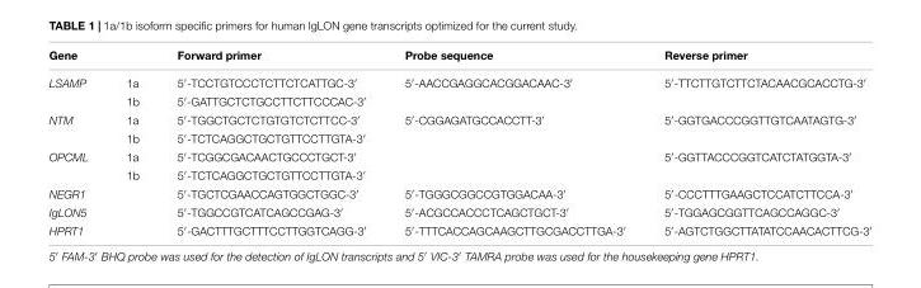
<table><thead><tr><td>Gene</td><td></td><td>Forward primer</td><td>Probe sequence</td><td>Reverse primer</td></tr></thead><tbody><tr><td rowspan="2">LSAMP</td><td>1a</td><td>5′-TCCTGTCCCTCTTCTCATTGC-3′</td><td>5′-AACCGAGGCACGGACAAC-3′</td><td>5′-TTCTTGTCTTCTACAACGCACCTG-3′</td></tr><tr><td>1b</td><td>5′-GATTGCTCTGCCTTCTTCCCAC-3′</td><td></td><td></td></tr><tr><td rowspan="2">NTM</td><td>1a</td><td>5′-TGGCTGCTCTGTGTCTCTTCC-3′</td><td>5′-CGGAGATGCCACCTT-3′</td><td>5′-GGTGACCCGGTTGTCAATAGTG-3′</td></tr><tr><td>1b</td><td>5′-TCTCAGGCTGCTGTTCCTTGTA-3′</td><td></td><td></td></tr><tr><td rowspan="2">OPCML</td><td>1a</td><td>5′-TCGGCGACAACTGCCCTGCT-3′</td><td></td><td>5′-GGTTACCCGGTCATCTATGGTA-3′</td></tr><tr><td>1b</td><td>5′-TCTCAGGCTGCTGTTCCTTGTA-3′</td><td></td><td></td></tr><tr><td>NEGR1</td><td></td><td>5′-TGCTCGAACCAGTGGCTGGC-3′</td><td>5′-TGGGCGGCCGTGGACAA-3′</td><td>5′-CCCTTTGAAGCTCCATCTTCCA-3′</td></tr><tr><td>IgLON5</td><td></td><td>5′-TGGCCGTCATCAGCCGAG-3′</td><td>5′-ACGCCACCCTCAGCTGCT-3′</td><td>5′-TGGAGCGGTTCAGCCAGGC-3′</td></tr><tr><td>HPRT1</td><td></td><td>5′-GACTTTGCTTTCCTTGGTCAGG-3′</td><td>5′-TTTCACCAGCAAGCTTGCGACCTTGA-3′</td><td>5′-AGTCTGGCTTATATCCAACACTTCG-3′</td></tr></tbody></table>